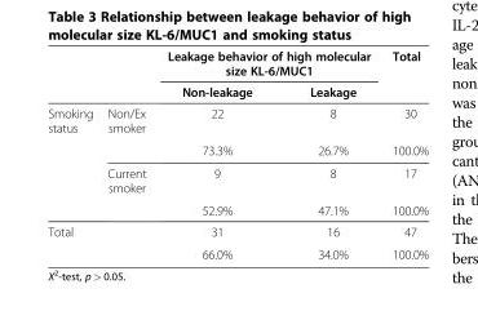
<table><thead><tr><td rowspan="2"></td><td rowspan="2"></td><td colspan="2">Leakage behavior of high molecular size KL-6/MUC1</td><td rowspan="2">Total</td></tr><tr><td>Non-leakage</td><td>Leakage</td></tr></thead><tbody><tr><td rowspan="4">Smoking status</td><td>Non/Ex smoker</td><td>22</td><td>8</td><td>30</td></tr><tr><td></td><td>73.3%</td><td>26.7%</td><td>100.0%</td></tr><tr><td>Current smoker</td><td>9</td><td>8</td><td>17</td></tr><tr><td></td><td>52.9%</td><td>47.1%</td><td>100.0%</td></tr><tr><td rowspan="2">Total</td><td></td><td>31</td><td>16</td><td>47</td></tr><tr><td></td><td>66.0%</td><td>34.0%</td><td>100.0%</td></tr></tbody></table>